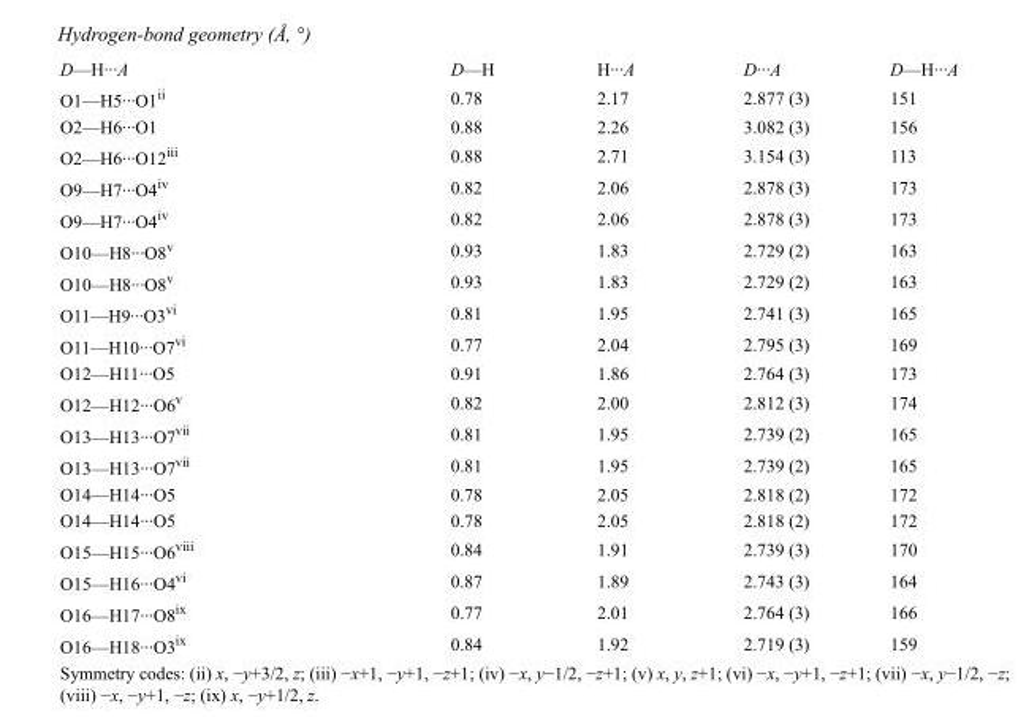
<table><tbody><tr><td>D—H···A</td><td>D—H</td><td>H···A</td><td>D···A</td><td>D—H···A</td></tr><tr><td>O1—H5···O1<sup>ii</sup></td><td>0.78</td><td>2.17</td><td>2.877 (3)</td><td>151</td></tr><tr><td>O2—H6···O1</td><td>0.88</td><td>2.26</td><td>3.082 (3)</td><td>156</td></tr><tr><td>O2—H6···O12<sup>iii</sup></td><td>0.88</td><td>2.71</td><td>3.154 (3)</td><td>113</td></tr><tr><td>O9—H7···O4<sup>iv</sup></td><td>0.82</td><td>2.06</td><td>2.878 (3)</td><td>173</td></tr><tr><td>O9—H7···O4<sup>iv</sup></td><td>0.82</td><td>2.06</td><td>2.878 (3)</td><td>173</td></tr><tr><td>O10—H8···O8<sup>v</sup></td><td>0.93</td><td>1.83</td><td>2.729 (2)</td><td>163</td></tr><tr><td>O10—H8···O8<sup>v</sup></td><td>0.93</td><td>1.83</td><td>2.729 (2)</td><td>163</td></tr><tr><td>O11—H9···O3<sup>vi</sup></td><td>0.81</td><td>1.95</td><td>2.741 (3)</td><td>165</td></tr><tr><td>O11—H10···O7<sup>vi</sup></td><td>0.77</td><td>2.04</td><td>2.795 (3)</td><td>169</td></tr><tr><td>O12—H11···O5</td><td>0.91</td><td>1.86</td><td>2.764 (3)</td><td>173</td></tr><tr><td>O12—H12···O6<sup>v</sup></td><td>0.82</td><td>2.00</td><td>2.812 (3)</td><td>174</td></tr><tr><td>O13—H13···O7<sup>vii</sup></td><td>0.81</td><td>1.95</td><td>2.739 (2)</td><td>165</td></tr><tr><td>O13—H13···O7<sup>vii</sup></td><td>0.81</td><td>1.95</td><td>2.739 (2)</td><td>165</td></tr><tr><td>O14—H14···O5</td><td>0.78</td><td>2.05</td><td>2.818 (2)</td><td>172</td></tr><tr><td>O14—H14···O5</td><td>0.78</td><td>2.05</td><td>2.818 (2)</td><td>172</td></tr><tr><td>O15—H15···O6<sup>viii</sup></td><td>0.84</td><td>1.91</td><td>2.739 (3)</td><td>170</td></tr><tr><td>O15—H16···O4<sup>vi</sup></td><td>0.87</td><td>1.89</td><td>2.743 (3)</td><td>164</td></tr><tr><td>O16—H17···O8<sup>ix</sup></td><td>0.77</td><td>2.01</td><td>2.764 (3)</td><td>166</td></tr><tr><td>O16—H18···O3<sup>ix</sup></td><td>0.84</td><td>1.92</td><td>2.719 (3)</td><td>159</td></tr></tbody></table>